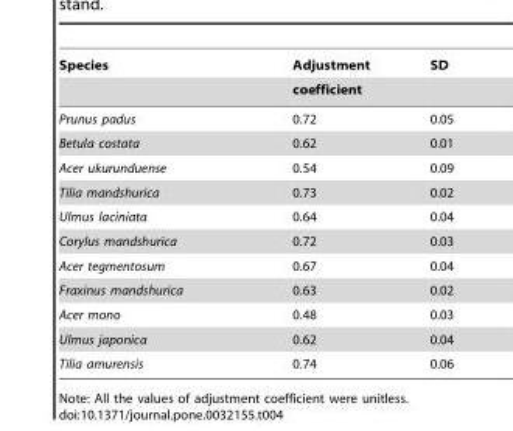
<table><thead><tr><td rowspan="2">Species</td><td rowspan="2">Adjustment coefficient</td><td rowspan="2">SD</td></tr><tr></tr></thead><tbody><tr><td>Prunus padus</td><td>0.72</td><td>0.05</td></tr><tr><td>Betula costata</td><td>0.62</td><td>0.01</td></tr><tr><td>Acer ukurunduense</td><td>0.54</td><td>0.09</td></tr><tr><td>Tilia mandshurica</td><td>0.73</td><td>0.02</td></tr><tr><td>Ulmus laciniata</td><td>0.64</td><td>0.04</td></tr><tr><td>Corylus mandshurica</td><td>0.72</td><td>0.03</td></tr><tr><td>Acer tegmentosum</td><td>0.67</td><td>0.04</td></tr><tr><td>Fraxinus mandshurica</td><td>0.63</td><td>0.02</td></tr><tr><td>Acer mono</td><td>0.48</td><td>0.03</td></tr><tr><td>Ulmus japonica</td><td>0.62</td><td>0.04</td></tr><tr><td>Tilia amurensis</td><td>0.74</td><td>0.06</td></tr></tbody></table>